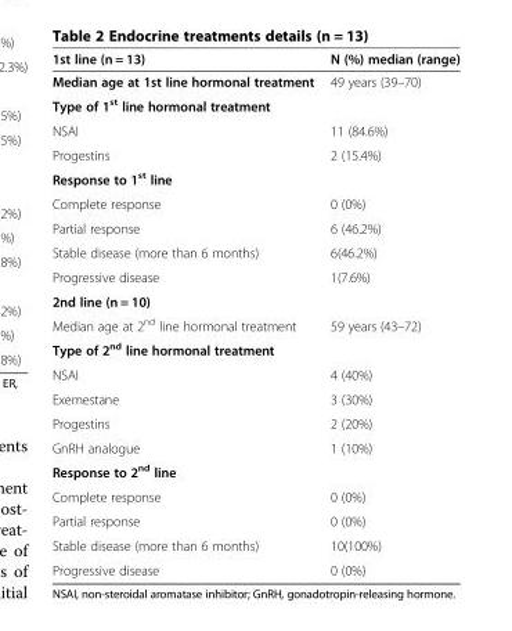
<table><thead><tr><td>1st line (n = 13)</td><td>N (%) median (range)</td></tr></thead><tbody><tr><td>Median age at 1st line hormonal treatment</td><td>49 years (39–70)</td></tr><tr><td colspan="2">Type of 1<sup>st</sup> line hormonal treatment</td></tr><tr><td>NSAI</td><td>11 (84.6%)</td></tr><tr><td>Progestins</td><td>2 (15.4%)</td></tr><tr><td colspan="2">Response to 1<sup>st</sup> line</td></tr><tr><td>Complete response</td><td>0 (0%)</td></tr><tr><td>Partial response</td><td>6 (46.2%)</td></tr><tr><td>Stable disease (more than 6 months)</td><td>6(46.2%)</td></tr><tr><td>Progressive disease</td><td>1(7.6%)</td></tr><tr><td colspan="2">2nd line (n = 10)</td></tr><tr><td>Median age at 2<sup>nd</sup> line hormonal treatment</td><td>59 years (43–72)</td></tr><tr><td colspan="2">Type of 2<sup>nd</sup> line hormonal treatment</td></tr><tr><td>NSAI</td><td>4 (40%)</td></tr><tr><td>Exemestane</td><td>3 (30%)</td></tr><tr><td>Progestins</td><td>2 (20%)</td></tr><tr><td>GnRH analogue</td><td>1 (10%)</td></tr><tr><td colspan="2">Response to 2<sup>nd</sup> line</td></tr><tr><td>Complete response</td><td>0 (0%)</td></tr><tr><td>Partial response</td><td>0 (0%)</td></tr><tr><td>Stable disease (more than 6 months)</td><td>10(100%)</td></tr><tr><td>Progressive disease</td><td>0 (0%)</td></tr></tbody></table>